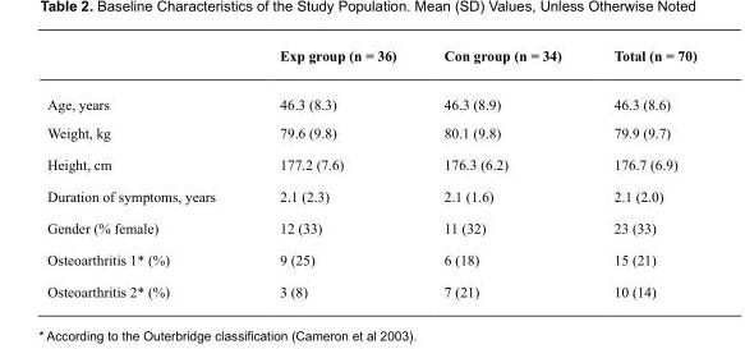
<table><thead><tr><td></td><td>Exp group (n = 36)</td><td>Con group (n = 34)</td><td>Total (n = 70)</td></tr></thead><tbody><tr><td>Age, years</td><td>46.3 (8.3)</td><td>46.3 (8.9)</td><td>46.3 (8.6)</td></tr><tr><td>Weight, kg</td><td>79.6 (9.8)</td><td>80.1 (9.8)</td><td>79.9 (9.7)</td></tr><tr><td>Height, cm</td><td>177.2 (7.6)</td><td>176.3 (6.2)</td><td>176.7 (6.9)</td></tr><tr><td>Duration of symptoms, years</td><td>2.1 (2.3)</td><td>2.1 (1.6)</td><td>2.1 (2.0)</td></tr><tr><td>Gender (% female)</td><td>12 (33)</td><td>11 (32)</td><td>23 (33)</td></tr><tr><td>Osteoarthritis 1* (%)</td><td>9 (25)</td><td>6 (18)</td><td>15 (21)</td></tr><tr><td>Osteoarthritis 2* (%)</td><td>3 (8)</td><td>7 (21)</td><td>10 (14)</td></tr></tbody></table>